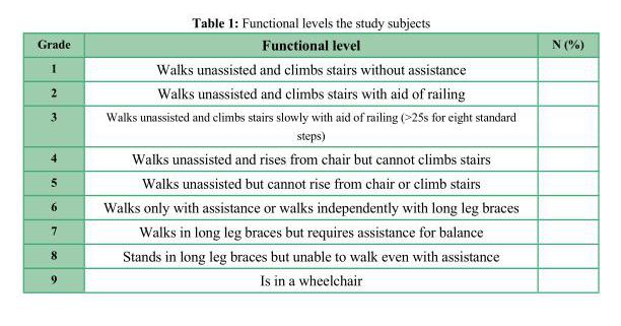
<table><tbody><tr><td>Grade</td><td>Functional level</td><td>N (%)</td></tr><tr><td>1</td><td>Walks unassisted and climbs stairs without assistance</td><td></td></tr><tr><td>2</td><td>Walks unassisted and climbs stairs with aid of railing</td><td></td></tr><tr><td>3</td><td>Walks unassisted and climbs stairs slowly with aid of railing (&gt;25s for eight standard steps)</td><td></td></tr><tr><td>4</td><td>Walks unassisted and rises from chair but cannot climbs stairs</td><td></td></tr><tr><td>5</td><td>Walks unassisted but cannot rise from chair or climb stairs</td><td></td></tr><tr><td>6</td><td>Walks only with assistance or walks independently with long leg braces</td><td></td></tr><tr><td>7</td><td>Walks in long leg braces but requires assistance for balance</td><td></td></tr><tr><td>8</td><td>Stands in long leg braces but unable to walk even with assistance</td><td></td></tr><tr><td>9</td><td>Is in a wheelchair</td><td></td></tr></tbody></table>